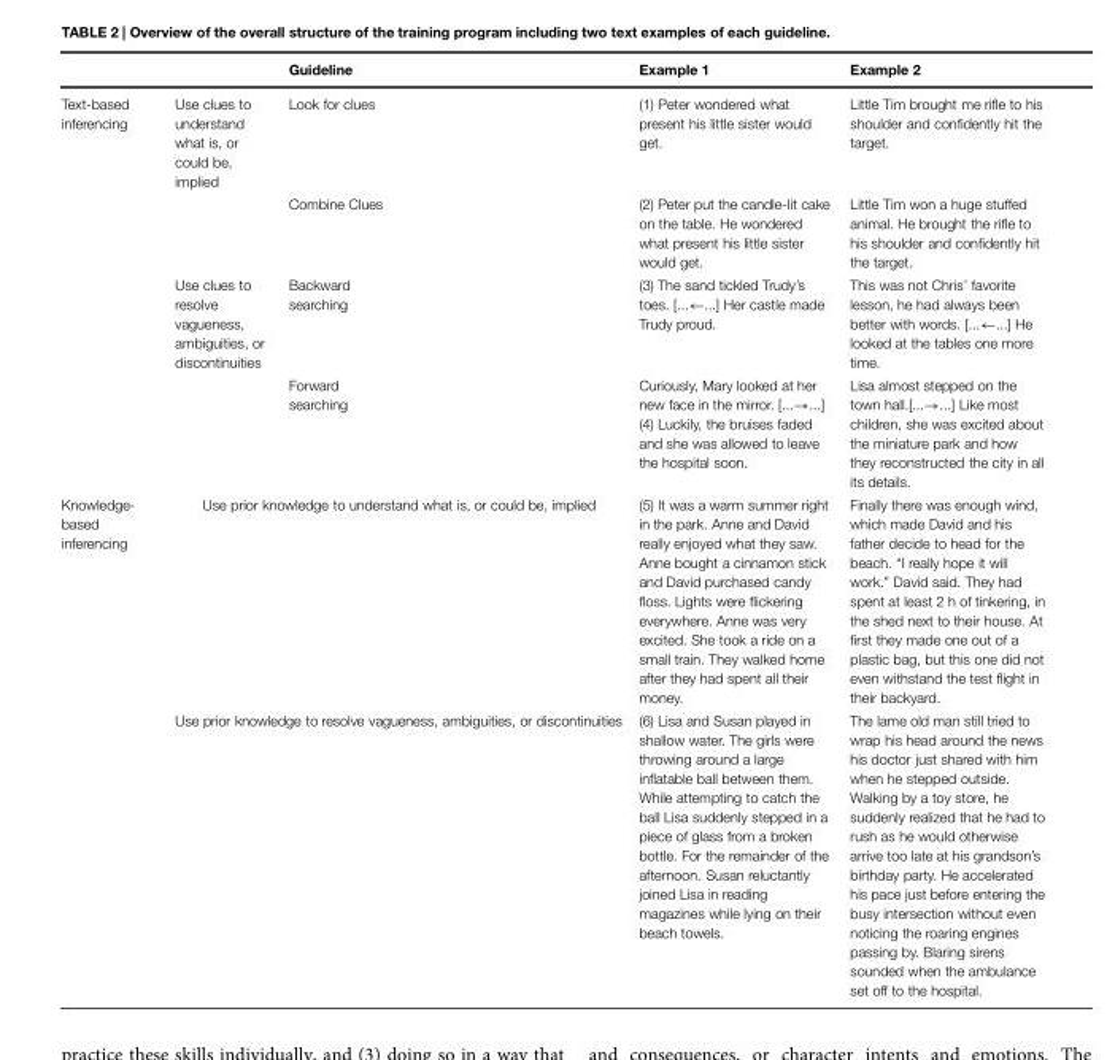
<table><thead><tr><td></td><td></td><td>Guideline</td><td>Example 1</td><td>Example 2</td></tr></thead><tbody><tr><td rowspan="4">Text-based inferencing</td><td>Use clues to understand what is, or could be, implied</td><td>Look for clues</td><td>(1) Peter wondered what present his little sister would get.</td><td>Little Tim brought me rifle to his shoulder and confidently hit the target.</td></tr><tr><td></td><td>Combine Clues</td><td>(2) Peter put the candle-lit cake on the table. He wondered what present his little sister would get.</td><td>Little Tim won a huge stuffed animal. He brought the rifle to his shoulder and confidently hit the target.</td></tr><tr><td>Use clues to resolve vagueness, ambiguities, or discontinuities</td><td>Backward searching</td><td>(3) The sand tickled Trudy’s toes. [...←...] Her castle made Trudy proud.</td><td>This was not Chris’ favorite lesson, he had always been better with words. [...←...] He looked at the tables one more time.</td></tr><tr><td></td><td>Forward searching</td><td>Curiously, Mary looked at her new face in the mirror. [...→...] (4) Luckily, the bruises faded and she was allowed to leave the hospital soon.</td><td>Lisa almost stepped on the town hall.[...→...] Like most children, she was excited about the miniature park and how they reconstructed the city in all its details.</td></tr><tr><td rowspan="2">Knowledge- based inferencing</td><td colspan="2">Use prior knowledge to understand what is, or could be, implied</td><td>(5) It was a warm summer right in the park. Anne and David really enjoyed what they saw. Anne bought a cinnamon stick and David purchased candy floss. Lights were flickering everywhere. Anne was very excited. She took a ride on a small train. They walked home after they had spent all their money.</td><td>Finally there was enough wind, which made David and his father decide to head for the beach. “I really hope it will work.” David said. They had spent at least 2 h of tinkering, in the shed next to their house. At first they made one out of a plastic bag, but this one did not even withstand the test flight in their backyard.</td></tr><tr><td colspan="2">Use prior knowledge to resolve vagueness, ambiguities, or discontinuities</td><td>(6) Lisa and Susan played in shallow water. The girls were throwing around a large inflatable ball between them. While attempting to catch the ball Lisa suddenly stepped in a piece of glass from a broken bottle. For the remainder of the afternoon. Susan reluctantly joined Lisa in reading magazines while lying on their beach towels.</td><td>The lame old man still tried to wrap his head around the news his doctor just shared with him when he stepped outside. Walking by a toy store, he suddenly realized that he had to rush as he would otherwise arrive too late at his grandson’s birthday party. He accelerated his pace just before entering the busy intersection without even noticing the roaring engines passing by. Blaring sirens sounded when the ambulance set off to the hospital.</td></tr></tbody></table>